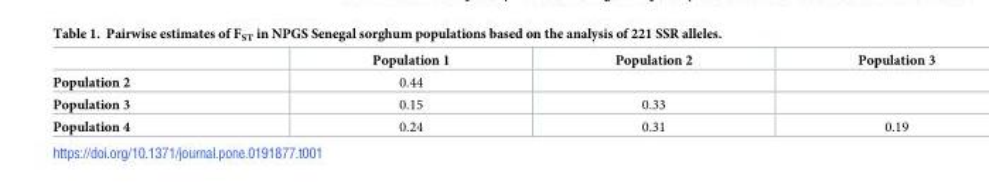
<table><thead><tr><td></td><td>Population 1</td><td>Population 2</td><td>Population 3</td></tr></thead><tbody><tr><td>Population 2</td><td>0.44</td><td></td><td></td></tr><tr><td>Population 3</td><td>0.15</td><td>0.33</td><td></td></tr><tr><td>Population 4</td><td>0.24</td><td>0.31</td><td>0.19</td></tr></tbody></table>